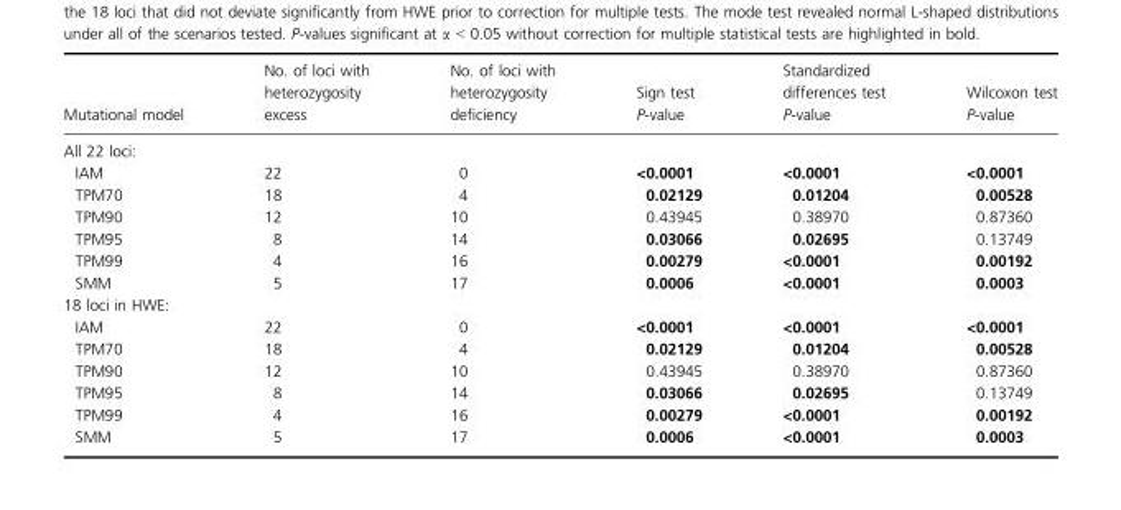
<table><thead><tr><td>Mutational model</td><td>No. of loci with heterozygosity excess</td><td>No. of loci with heterozygosity deficiency</td><td>Sign test P-value</td><td>Standardized differences test P-value</td><td>Wilcoxon test P-value</td></tr></thead><tbody><tr><td colspan="6">All 22 loci:</td></tr><tr><td>IAM</td><td>22</td><td>0</td><td>&lt;0.0001</td><td>&lt;0.0001</td><td>&lt;0.0001</td></tr><tr><td>TPM70</td><td>18</td><td>4</td><td>0.02129</td><td>0.01204</td><td>0.00528</td></tr><tr><td>TPM90</td><td>12</td><td>10</td><td>0.43945</td><td>0.38970</td><td>0.87360</td></tr><tr><td>TPM95</td><td>8</td><td>14</td><td>0.03066</td><td>0.02695</td><td>0.13749</td></tr><tr><td>TPM99</td><td>4</td><td>16</td><td>0.00279</td><td>&lt;0.0001</td><td>0.00192</td></tr><tr><td>SMM</td><td>5</td><td>17</td><td>0.0006</td><td>&lt;0.0001</td><td>0.0003</td></tr><tr><td colspan="6">18 loci in HWE:</td></tr><tr><td>IAM</td><td>22</td><td>0</td><td>&lt;0.0001</td><td>&lt;0.0001</td><td>&lt;0.0001</td></tr><tr><td>TPM70</td><td>18</td><td>4</td><td>0.02129</td><td>0.01204</td><td>0.00528</td></tr><tr><td>TPM90</td><td>12</td><td>10</td><td>0.43945</td><td>0.38970</td><td>0.87360</td></tr><tr><td>TPM95</td><td>8</td><td>14</td><td>0.03066</td><td>0.02695</td><td>0.13749</td></tr><tr><td>TPM99</td><td>4</td><td>16</td><td>0.00279</td><td>&lt;0.0001</td><td>0.00192</td></tr><tr><td>SMM</td><td>5</td><td>17</td><td>0.0006</td><td>&lt;0.0001</td><td>0.0003</td></tr></tbody></table>